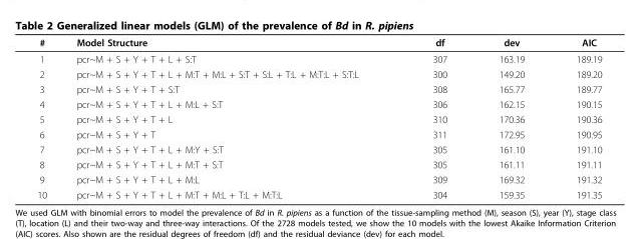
<table><thead><tr><td>#</td><td>Model Structure</td><td>df</td><td>dev</td><td>AIC</td></tr></thead><tbody><tr><td>1</td><td>pcr~M + S + Y + T + L + S:T</td><td>307</td><td>163.19</td><td>189.19</td></tr><tr><td>2</td><td>pcr~M + S + Y + T + L + M:T + M:L + S:T + S:L + T:L + M:T:L + S:T:L</td><td>300</td><td>149.20</td><td>189.20</td></tr><tr><td>3</td><td>pcr~M + S + Y + T + S:T</td><td>308</td><td>165.77</td><td>189.77</td></tr><tr><td>4</td><td>pcr~M + S + Y + T + L + M:L + S:T</td><td>306</td><td>162.15</td><td>190.15</td></tr><tr><td>5</td><td>pcr~M + S + Y + T + L</td><td>310</td><td>170.36</td><td>190.36</td></tr><tr><td>6</td><td>pcr~M + S + Y + T</td><td>311</td><td>172.95</td><td>190.95</td></tr><tr><td>7</td><td>pcr~M + S + Y + T + L + M:Y + S:T</td><td>305</td><td>161.10</td><td>191.10</td></tr><tr><td>8</td><td>pcr~M + S + Y + T + L + M:T + S:T</td><td>305</td><td>161.11</td><td>191.11</td></tr><tr><td>9</td><td>pcr~M + S + Y + T + L + M:L</td><td>309</td><td>169.32</td><td>191.32</td></tr><tr><td>10</td><td>pcr~M + S + Y + T + L + M:T + M:L + T:L + M:T:L</td><td>304</td><td>159.35</td><td>191.35</td></tr></tbody></table>